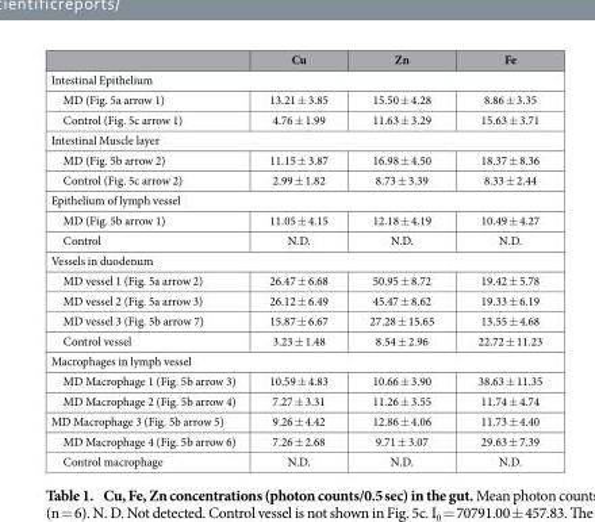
<table><thead><tr><td></td><td>Cu</td><td>Zn</td><td>Fe</td></tr></thead><tbody><tr><td colspan="4">Intestinal Epithelium</td></tr><tr><td>MD (Fig. 5a arrow 1)</td><td>13.21 ± 3.85</td><td>15.50 ± 4.28</td><td>8.86 ± 3.35</td></tr><tr><td>Control (Fig. 5c arrow 1)</td><td>4.76 ± 1.99</td><td>11.63 ± 3.29</td><td>15.63 ± 3.71</td></tr><tr><td colspan="4">Intestinal Muscle layer</td></tr><tr><td>MD (Fig. 5b arrow 2)</td><td>11.15 ± 3.87</td><td>16.98 ± 4.50</td><td>18.37 ± 8.36</td></tr><tr><td>Control (Fig. 5c arrow 2)</td><td>2.99 ± 1.82</td><td>8.73 ± 3.39</td><td>8.33 ± 2.44</td></tr><tr><td colspan="4">Epithelium of lymph vessel</td></tr><tr><td>MD (Fig. 5b arrow 1)</td><td>11.05 ± 4.15</td><td>12.18 ± 4.19</td><td>10.49 ± 4.27</td></tr><tr><td>Control</td><td>N.D.</td><td>N.D.</td><td>N.D.</td></tr><tr><td colspan="4">Vessels in duodenum</td></tr><tr><td>MD vessel 1 (Fig. 5a arrow 2)</td><td>26.47 ± 6.68</td><td>50.95 ± 8.72</td><td>19.42 ± 5.78</td></tr><tr><td>MD vessel 2 (Fig. 5a arrow 3)</td><td>26.12 ± 6.49</td><td>45.47 ± 8.62</td><td>19.33 ± 6.19</td></tr><tr><td>MD vessel 3 (Fig. 5b arrow 7)</td><td>15.87 ± 6.67</td><td>27.28 ± 15.65</td><td>13.55 ± 4.68</td></tr><tr><td>Control vessel</td><td>3.23 ± 1.48</td><td>8.54 ± 2.96</td><td>22.72 ± 11.23</td></tr><tr><td colspan="4">Macrophages in lymph vessel</td></tr><tr><td>MD Macrophage 1 (Fig. 5b arrow 3)</td><td>10.59 ± 4.83</td><td>10.66 ± 3.90</td><td>38.63 ± 11.35</td></tr><tr><td>MD Macrophage 2 (Fig. 5b arrow 4)</td><td>7.27 ± 3.31</td><td>11.26 ± 3.55</td><td>11.74 ± 4.74</td></tr><tr><td>MD Macrophage 3 (Fig. 5b arrow 5)</td><td>9.26 ± 4.42</td><td>12.86 ± 4.06</td><td>11.73 ± 4.40</td></tr><tr><td>MD Macrophage 4 (Fig. 5b arrow 6)</td><td>7.26 ± 2.68</td><td>9.71 ± 3.07</td><td>29.63 ± 7.39</td></tr><tr><td>Control macrophage</td><td>N.D.</td><td>N.D.</td><td>N.D.</td></tr></tbody></table>